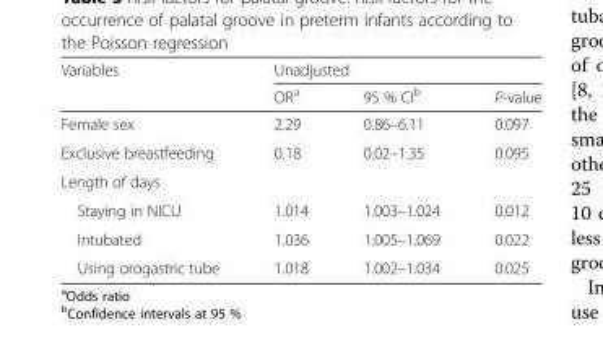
<table><thead><tr><td rowspan="2">Variables</td><td colspan="3">Unadjusted</td></tr><tr><td>OR<sup>a</sup></td><td>95 % CI<sup>b</sup></td><td>P-value</td></tr></thead><tbody><tr><td>Female sex</td><td>2.29</td><td>0.86–6.11</td><td>0.097</td></tr><tr><td>Exclusive breastfeeding</td><td>0.18</td><td>0.02–1.35</td><td>0.095</td></tr><tr><td colspan="4">Length of days</td></tr><tr><td>Staying in NICU</td><td>1.014</td><td>1.003–1.024</td><td>0.012</td></tr><tr><td>Intubated</td><td>1.036</td><td>1.005–1.069</td><td>0.022</td></tr><tr><td>Using orogastric tube</td><td>1.018</td><td>1.002–1.034</td><td>0.025</td></tr></tbody></table>